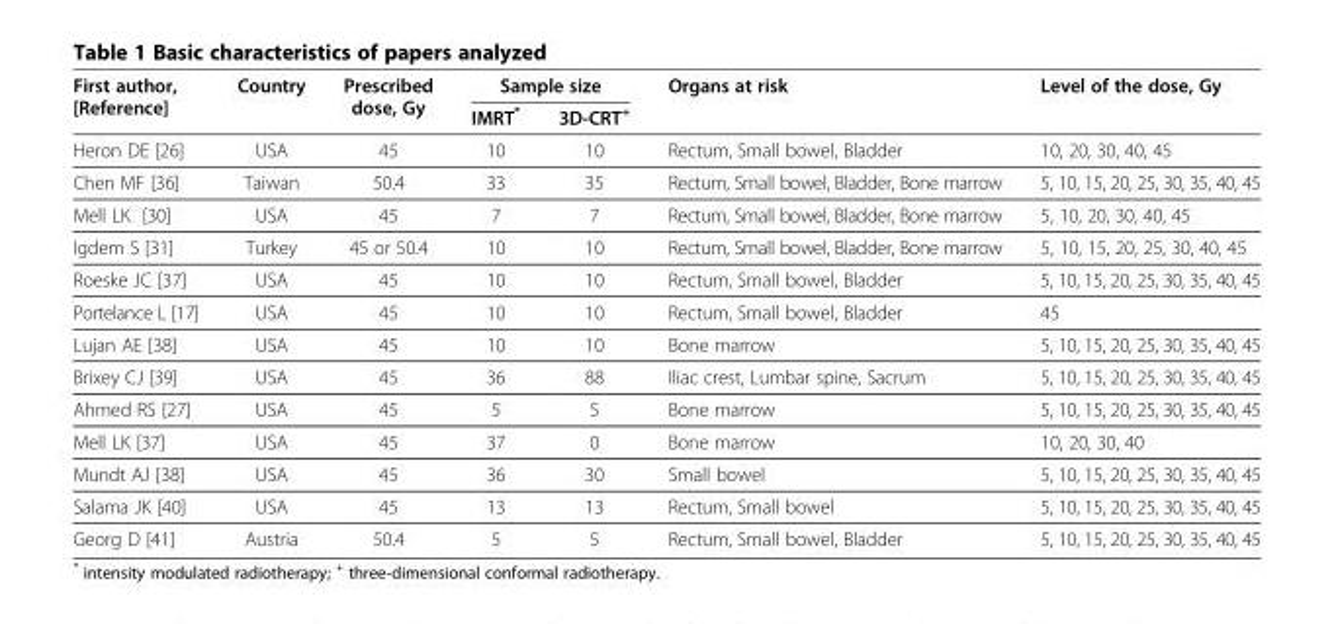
<table><thead><tr><td rowspan="2">First author, [Reference]</td><td rowspan="2">Country</td><td rowspan="2">Prescribed dose, Gy</td><td colspan="2">Sample size</td><td rowspan="2">Organs at risk</td><td rowspan="2">Level of the dose, Gy</td></tr><tr><td>IMRT*</td><td>3D-CRT<sup>+</sup></td></tr></thead><tbody><tr><td>Heron DE [26]</td><td>USA</td><td>45</td><td>10</td><td>10</td><td>Rectum, Small bowel, Bladder</td><td>10, 20, 30, 40, 45</td></tr><tr><td>Chen MF [36]</td><td>Taiwan</td><td>50.4</td><td>33</td><td>35</td><td>Rectum, Small bowel, Bladder, Bone marrow</td><td>5, 10, 15, 20, 25, 30, 35, 40, 45</td></tr><tr><td>Mell LK [30]</td><td>USA</td><td>45</td><td>7</td><td>7</td><td>Rectum, Small bowel, Bladder, Bone marrow</td><td>5, 10, 20, 30, 40, 45</td></tr><tr><td>Igdem S [31]</td><td>Turkey</td><td>45 or 50.4</td><td>10</td><td>10</td><td>Rectum, Small bowel, Bladder, Bone marrow</td><td>5, 10, 15, 20, 25, 30, 40, 45</td></tr><tr><td>Roeske JC [37]</td><td>USA</td><td>45</td><td>10</td><td>10</td><td>Rectum, Small bowel, Bladder</td><td>5, 10, 15, 20, 25, 30, 35, 40, 45</td></tr><tr><td>Portelance L [17]</td><td>USA</td><td>45</td><td>10</td><td>10</td><td>Rectum, Small bowel, Bladder</td><td>45</td></tr><tr><td>Lujan AE [38]</td><td>USA</td><td>45</td><td>10</td><td>10</td><td>Bone marrow</td><td>5, 10, 15, 20, 25, 30, 35, 40, 45</td></tr><tr><td>Brixey CJ [39]</td><td>USA</td><td>45</td><td>36</td><td>88</td><td>Iliac crest, Lumbar spine, Sacrum</td><td>5, 10, 15, 20, 25, 30, 35, 40, 45</td></tr><tr><td>Ahmed RS [27]</td><td>USA</td><td>45</td><td>5</td><td>5</td><td>Bone marrow</td><td>5, 10, 15, 20, 25, 30, 35, 40, 45</td></tr><tr><td>Mell LK [37]</td><td>USA</td><td>45</td><td>37</td><td>0</td><td>Bone marrow</td><td>10, 20, 30, 40</td></tr><tr><td>Mundt AJ [38]</td><td>USA</td><td>45</td><td>36</td><td>30</td><td>Small bowel</td><td>5, 10, 15, 20, 25, 30, 35, 40, 45</td></tr><tr><td>Salama JK [40]</td><td>USA</td><td>45</td><td>13</td><td>13</td><td>Rectum, Small bowel</td><td>5, 10, 15, 20, 25, 30, 35, 40, 45</td></tr><tr><td>Georg D [41]</td><td>Austria</td><td>50.4</td><td>5</td><td>5</td><td>Rectum, Small bowel, Bladder</td><td>5, 10, 15, 20, 25, 30, 35, 40, 45</td></tr></tbody></table>